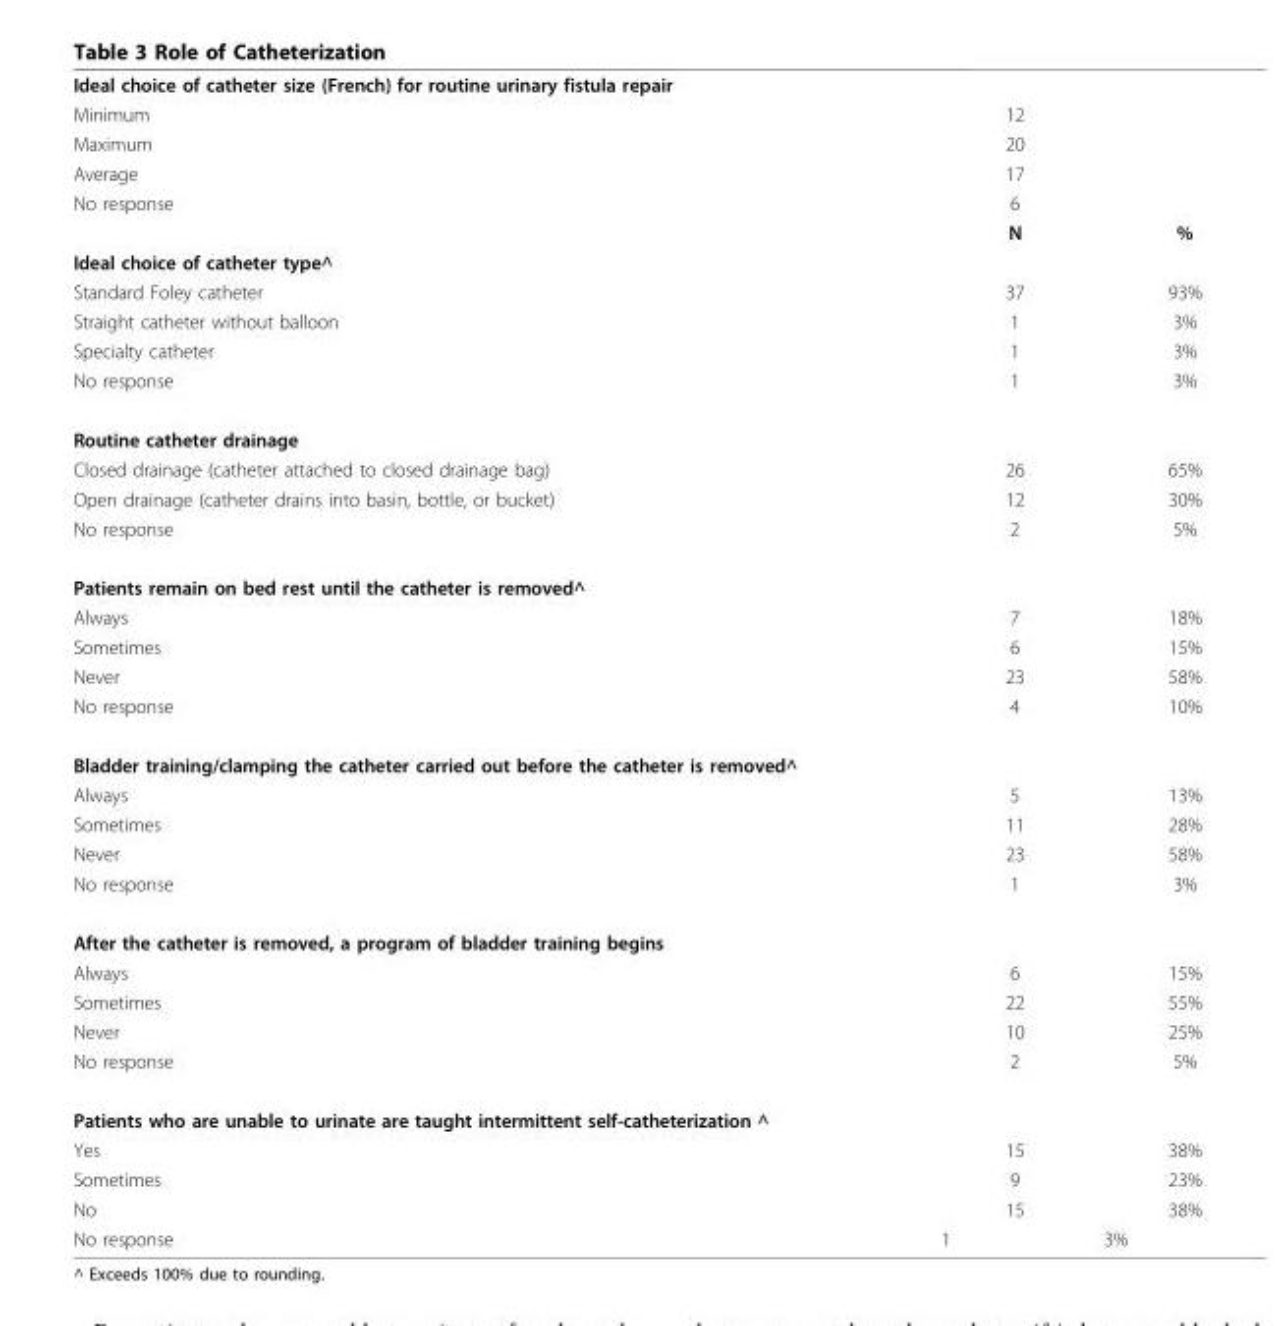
<table><tbody><tr><td colspan="3">Ideal choice of catheter size (French) for routine urinary fistula repair</td></tr><tr><td>Minimum</td><td>12</td><td></td></tr><tr><td>Maximum</td><td>20</td><td></td></tr><tr><td>Average</td><td>17</td><td></td></tr><tr><td rowspan="2">No response</td><td>6</td><td></td></tr><tr><td>N</td><td>%</td></tr><tr><td colspan="3">Ideal choice of catheter type^</td></tr><tr><td>Standard Foley catheter</td><td>37</td><td>93%</td></tr><tr><td>Straight catheter without balloon</td><td>1</td><td>3%</td></tr><tr><td>Specialty catheter</td><td>1</td><td>3%</td></tr><tr><td>No response</td><td>1</td><td>3%</td></tr><tr><td colspan="3">Routine catheter drainage</td></tr><tr><td>Closed drainage (catheter attached to closed drainage bag)</td><td>26</td><td>65%</td></tr><tr><td>Open drainage (catheter drains into basin, bottle, or bucket)</td><td>12</td><td>30%</td></tr><tr><td>No response</td><td>2</td><td>5%</td></tr><tr><td colspan="3">Patients remain on bed rest until the catheter is removed^</td></tr><tr><td>Always</td><td>7</td><td>18%</td></tr><tr><td>Sometimes</td><td>6</td><td>15%</td></tr><tr><td>Never</td><td>23</td><td>58%</td></tr><tr><td>No response</td><td>4</td><td>10%</td></tr><tr><td colspan="3">Bladder training/clamping the catheter carried out before the catheter is removed^</td></tr><tr><td>Always</td><td>5</td><td>13%</td></tr><tr><td>Sometimes</td><td>11</td><td>28%</td></tr><tr><td>Never</td><td>23</td><td>58%</td></tr><tr><td>No response</td><td>1</td><td>3%</td></tr><tr><td colspan="3">After the catheter is removed, a program of bladder training begins</td></tr><tr><td>Always</td><td>6</td><td>15%</td></tr><tr><td>Sometimes</td><td>22</td><td>55%</td></tr><tr><td>Never</td><td>10</td><td>25%</td></tr><tr><td>No response</td><td>2</td><td>5%</td></tr><tr><td colspan="3">Patients who are unable to urinate are taught intermittent self-catheterization ^</td></tr><tr><td>Yes</td><td>15</td><td>38%</td></tr><tr><td>Sometimes</td><td>9</td><td>23%</td></tr><tr><td>No</td><td>15</td><td>38%</td></tr><tr><td>No response</td><td>1</td><td>3%</td></tr></tbody></table>